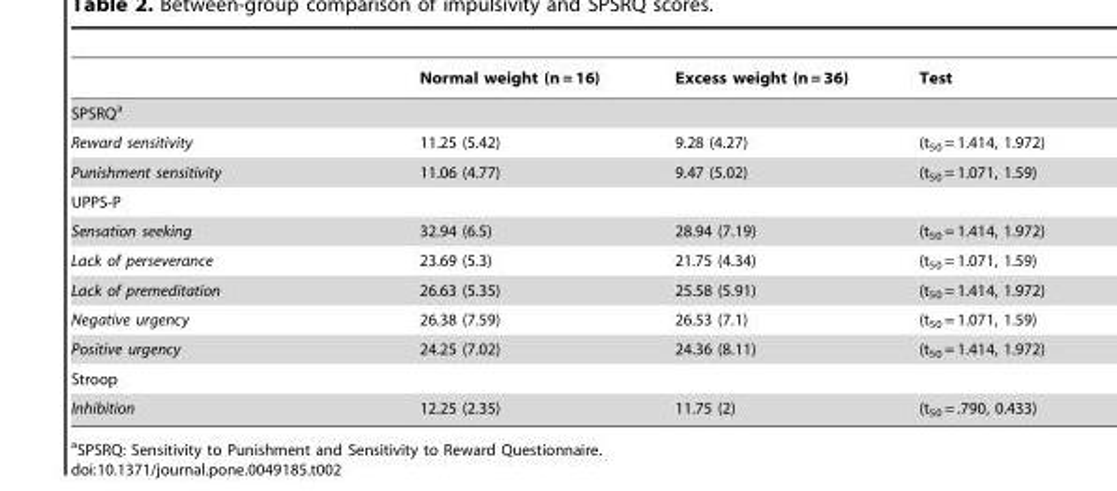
<table><thead><tr><td></td><td>Normal weight (n = 16)</td><td>Excess weight (n = 36)</td><td>Test</td></tr></thead><tbody><tr><td colspan="4">SPSRQ<sup>a</sup></td></tr><tr><td>Reward sensitivity</td><td>11.25 (5.42)</td><td>9.28 (4.27)</td><td>(t<sub>50</sub> = 1.414, 1.972)</td></tr><tr><td>Punishment sensitivity</td><td>11.06 (4.77)</td><td>9.47 (5.02)</td><td>(t<sub>50</sub> = 1.071, 1.59)</td></tr><tr><td colspan="4">UPPS-P</td></tr><tr><td>Sensation seeking</td><td>32.94 (6.5)</td><td>28.94 (7.19)</td><td>(t<sub>50</sub> = 1.414, 1.972)</td></tr><tr><td>Lack of perseverance</td><td>23.69 (5.3)</td><td>21.75 (4.34)</td><td>(t<sub>50</sub> = 1.071, 1.59)</td></tr><tr><td>Lack of premeditation</td><td>26.63 (5.35)</td><td>25.58 (5.91)</td><td>(t<sub>50</sub> = 1.414, 1.972)</td></tr><tr><td>Negative urgency</td><td>26.38 (7.59)</td><td>26.53 (7.1)</td><td>(t<sub>50</sub> = 1.071, 1.59)</td></tr><tr><td>Positive urgency</td><td>24.25 (7.02)</td><td>24.36 (8.11)</td><td>(t<sub>50</sub> = 1.414, 1.972)</td></tr><tr><td colspan="4">Stroop</td></tr><tr><td>Inhibition</td><td>12.25 (2.35)</td><td>11.75 (2)</td><td>(t<sub>50</sub> = .790, 0.433)</td></tr></tbody></table>